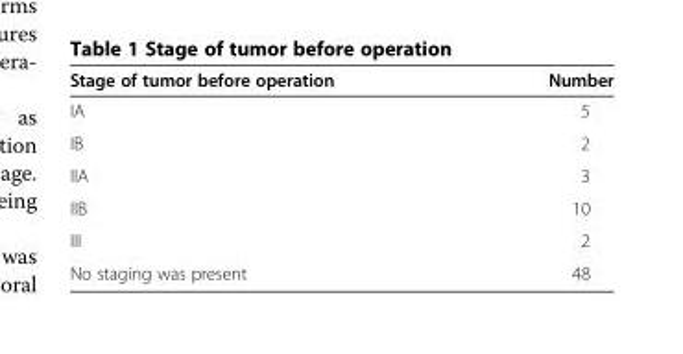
<table><thead><tr><td>Stage of tumor before operation</td><td>Number</td></tr></thead><tbody><tr><td>IA</td><td>5</td></tr><tr><td>IB</td><td>2</td></tr><tr><td>IIA</td><td>3</td></tr><tr><td>IIB</td><td>10</td></tr><tr><td>III</td><td>2</td></tr><tr><td>No staging was present</td><td>48</td></tr></tbody></table>